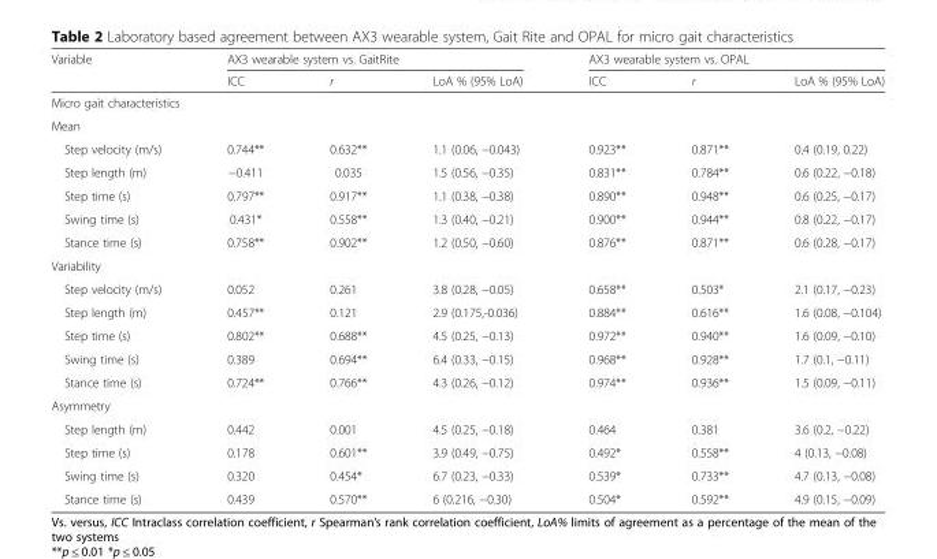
<table><thead><tr><td rowspan="2">Variable</td><td colspan="3">AX3 wearable system vs. GaitRite</td><td colspan="3">AX3 wearable system vs. OPAL</td></tr><tr><td>ICC</td><td>r</td><td>LoA % (95% LoA)</td><td>ICC</td><td>r</td><td>LoA % (95% LoA)</td></tr></thead><tbody><tr><td colspan="7">Micro gait characteristics</td></tr><tr><td colspan="7">Mean</td></tr><tr><td>Step velocity (m/s)</td><td>0.744**</td><td>0.632**</td><td>1.1 (0.06, −0.043)</td><td>0.923**</td><td>0.871**</td><td>0.4 (0.19, 0.22)</td></tr><tr><td>Step length (m)</td><td>−0.411</td><td>0.035</td><td>1.5 (0.56, −0.35)</td><td>0.831**</td><td>0.784**</td><td>0.6 (0.22, −0.18)</td></tr><tr><td>Step time (s)</td><td>0.797**</td><td>0.917**</td><td>1.1 (0.38, −0.38)</td><td>0.890**</td><td>0.948**</td><td>0.6 (0.25, −0.17)</td></tr><tr><td>Swing time (s)</td><td>0.431*</td><td>0.558**</td><td>1.3 (0.40, −0.21)</td><td>0.900**</td><td>0.944**</td><td>0.8 (0.22, −0.17)</td></tr><tr><td>Stance time (s)</td><td>0.758**</td><td>0.902**</td><td>1.2 (0.50, −0.60)</td><td>0.876**</td><td>0.871**</td><td>0.6 (0.28, −0.17)</td></tr><tr><td colspan="7">Variability</td></tr><tr><td>Step velocity (m/s)</td><td>0.052</td><td>0.261</td><td>3.8 (0.28, −0.05)</td><td>0.658**</td><td>0.503*</td><td>2.1 (0.17, −0.23)</td></tr><tr><td>Step length (m)</td><td>0.457**</td><td>0.121</td><td>2.9 (0.175,-0.036)</td><td>0.884**</td><td>0.616**</td><td>1.6 (0.08, −0.104)</td></tr><tr><td>Step time (s)</td><td>0.802**</td><td>0.688**</td><td>4.5 (0.25, −0.13)</td><td>0.972**</td><td>0.940**</td><td>1.6 (0.09, −0.10)</td></tr><tr><td>Swing time (s)</td><td>0.389</td><td>0.694**</td><td>6.4 (0.33, −0.15)</td><td>0.968**</td><td>0.928**</td><td>1.7 (0.1, −0.11)</td></tr><tr><td>Stance time (s)</td><td>0.724**</td><td>0.766**</td><td>4.3 (0.26, −0.12)</td><td>0.974**</td><td>0.936**</td><td>1.5 (0.09, −0.11)</td></tr><tr><td colspan="7">Asymmetry</td></tr><tr><td>Step length (m)</td><td>0.442</td><td>0.001</td><td>4.5 (0.25, −0.18)</td><td>0.464</td><td>0.381</td><td>3.6 (0.2, −0.22)</td></tr><tr><td>Step time (s)</td><td>0.178</td><td>0.601**</td><td>3.9 (0.49, −0.75)</td><td>0.492*</td><td>0.558**</td><td>4 (0.13, −0.08)</td></tr><tr><td>Swing time (s)</td><td>0.320</td><td>0.454*</td><td>6.7 (0.23, −0.33)</td><td>0.539*</td><td>0.733**</td><td>4.7 (0.13, −0.08)</td></tr><tr><td>Stance time (s)</td><td>0.439</td><td>0.570**</td><td>6 (0.216, −0.30)</td><td>0.504*</td><td>0.592**</td><td>4.9 (0.15, −0.09)</td></tr></tbody></table>